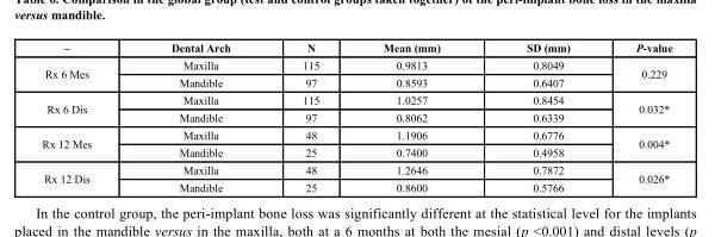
<table><thead><tr><td>–</td><td>Dental Arch</td><td>N</td><td>Mean (mm)</td><td>SD (mm)</td><td>P-value</td></tr></thead><tbody><tr><td rowspan="2">Rx 6 Mes</td><td>Maxilla</td><td>115</td><td>0.9813</td><td>0.8049</td><td rowspan="2">0.229</td></tr><tr><td>Mandible</td><td>97</td><td>0.8593</td><td>0.6407</td></tr><tr><td rowspan="2">Rx 6 Dis</td><td>Maxilla</td><td>115</td><td>1.0257</td><td>0.8454</td><td rowspan="2">0.032*</td></tr><tr><td>Mandible</td><td>97</td><td>0.8062</td><td>0.6339</td></tr><tr><td rowspan="2">Rx 12 Mes</td><td>Maxilla</td><td>48</td><td>1.1906</td><td>0.6776</td><td rowspan="2">0.004*</td></tr><tr><td>Mandible</td><td>25</td><td>0.7400</td><td>0.4958</td></tr><tr><td rowspan="2">Rx 12 Dis</td><td>Maxilla</td><td>48</td><td>1.2646</td><td>0.7872</td><td rowspan="2">0.026*</td></tr><tr><td>Mandible</td><td>25</td><td>0.8600</td><td>0.5766</td></tr></tbody></table>